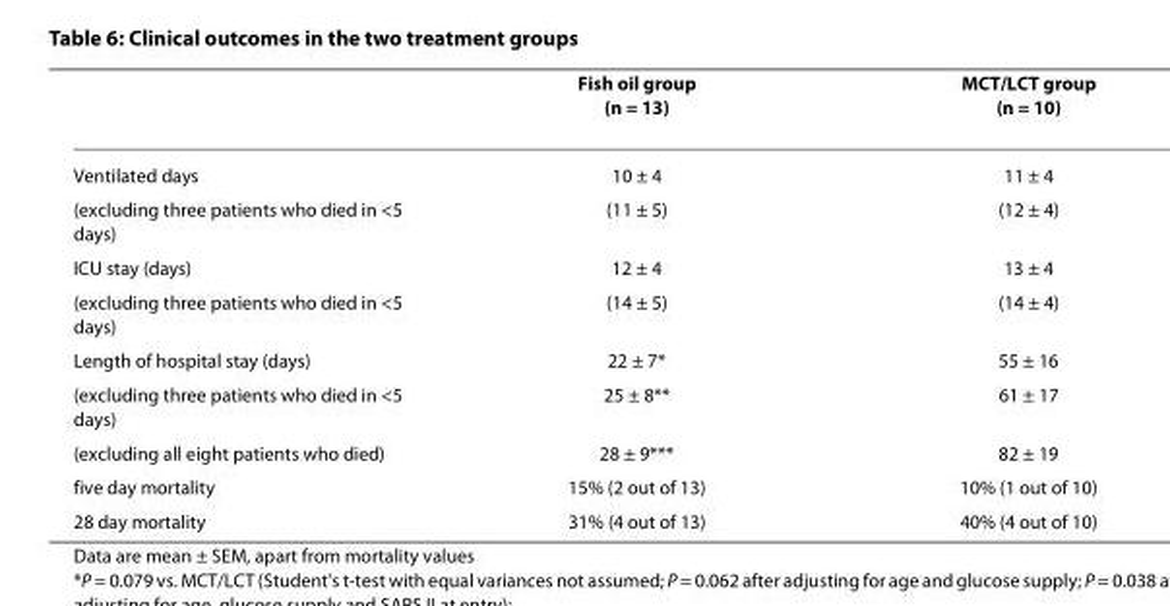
<table><thead><tr><td></td><td>Fish oil group (n = 13)</td><td>MCT/LCT group (n = 10)</td></tr></thead><tbody><tr><td>Ventilated days</td><td>10 ± 4</td><td>11 ± 4</td></tr><tr><td>(excluding three patients who died in &lt;5 days)</td><td>(11 ± 5)</td><td>(12 ± 4)</td></tr><tr><td>ICU stay (days)</td><td>12 ± 4</td><td>13 ± 4</td></tr><tr><td>(excluding three patients who died in &lt;5 days)</td><td>(14 ± 5)</td><td>(14 ± 4)</td></tr><tr><td>Length of hospital stay (days)</td><td>22 ± 7*</td><td>55 ± 16</td></tr><tr><td>(excluding three patients who died in &lt;5 days)</td><td>25 ± 8**</td><td>61 ± 17</td></tr><tr><td>(excluding all eight patients who died)</td><td>28 ± 9***</td><td>82 ± 19</td></tr><tr><td>five day mortality</td><td>15% (2 out of 13)</td><td>10% (1 out of 10)</td></tr><tr><td>28 day mortality</td><td>31% (4 out of 13)</td><td>40% (4 out of 10)</td></tr></tbody></table>